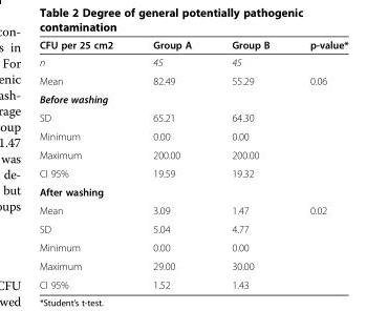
<table><thead><tr><td>CFU per 25 cm2</td><td>Group A</td><td>Group B</td><td>p-value*</td></tr></thead><tbody><tr><td>n</td><td>45</td><td>45</td><td></td></tr><tr><td>Mean</td><td>82.49</td><td>55.29</td><td>0.06</td></tr><tr><td colspan="4">Before washing</td></tr><tr><td>SD</td><td>65.21</td><td>64.30</td><td></td></tr><tr><td>Minimum</td><td>0.00</td><td>0.00</td><td></td></tr><tr><td>Maximum</td><td>200.00</td><td>200.00</td><td></td></tr><tr><td>CI 95%</td><td>19.59</td><td>19.32</td><td></td></tr><tr><td colspan="4">After washing</td></tr><tr><td>Mean</td><td>3.09</td><td>1.47</td><td>0.02</td></tr><tr><td>SD</td><td>5.04</td><td>4.77</td><td></td></tr><tr><td>Minimum</td><td>0.00</td><td>0.00</td><td></td></tr><tr><td>Maximum</td><td>29.00</td><td>30.00</td><td></td></tr><tr><td>CI 95%</td><td>1.52</td><td>1.43</td><td></td></tr></tbody></table>